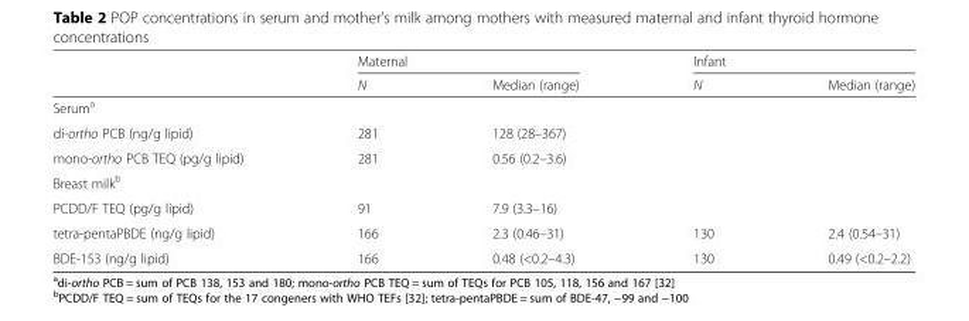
<table><thead><tr><td rowspan="2"></td><td colspan="2">Maternal</td><td colspan="2">Infant</td></tr><tr><td>N</td><td>Median (range)</td><td>N</td><td>Median (range)</td></tr></thead><tbody><tr><td colspan="5">Serum<sup>a</sup></td></tr><tr><td>di-ortho PCB (ng/g lipid)</td><td>281</td><td>128 (28–367)</td><td></td><td></td></tr><tr><td>mono-ortho PCB TEQ (pg/g lipid)</td><td>281</td><td>0.56 (0.2–3.6)</td><td></td><td></td></tr><tr><td colspan="5">Breast milk<sup>b</sup></td></tr><tr><td>PCDD/F TEQ (pg/g lipid)</td><td>91</td><td>7.9 (3.3–16)</td><td></td><td></td></tr><tr><td>tetra-pentaPBDE (ng/g lipid)</td><td>166</td><td>2.3 (0.46–31)</td><td>130</td><td>2.4 (0.54–31)</td></tr><tr><td>BDE-153 (ng/g lipid)</td><td>166</td><td>0.48 (&lt;0.2–4.3)</td><td>130</td><td>0.49 (&lt;0.2–2.2)</td></tr></tbody></table>